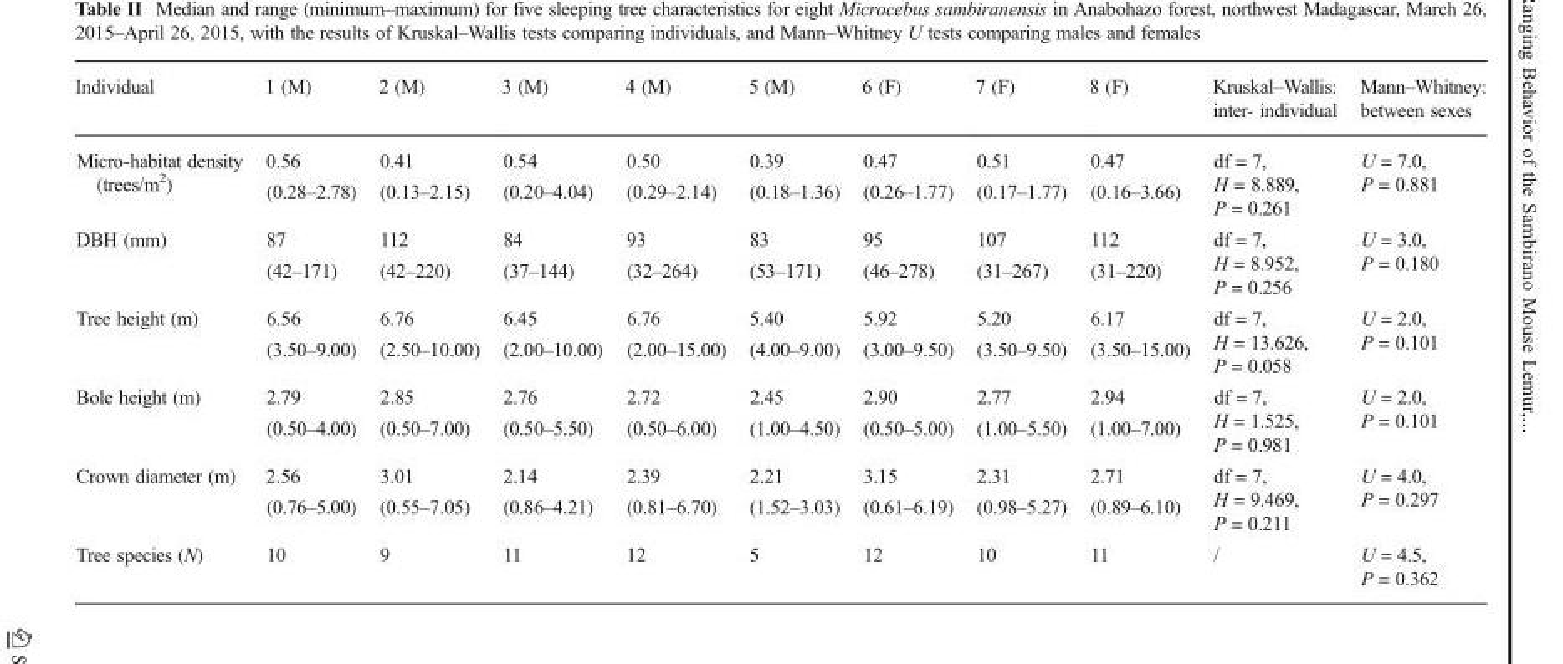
<table><thead><tr><td>Individual</td><td>1 (M)</td><td>2 (M)</td><td>3 (M)</td><td>4 (M)</td><td>5 (M)</td><td>6 (F)</td><td>7 (F)</td><td>8 (F)</td><td>Kruskal–Wallis: inter- individual</td><td>Mann–Whitney: between sexes</td></tr></thead><tbody><tr><td rowspan="2">Micro-habitat density (trees/m<sup>2</sup>)</td><td>0.56</td><td>0.41</td><td>0.54</td><td>0.50</td><td>0.39</td><td>0.47</td><td>0.51</td><td>0.47</td><td rowspan="2">df = 7, H = 8.889, P = 0.261</td><td rowspan="2">U = 7.0, P = 0.881</td></tr><tr><td>(0.28–2.78)</td><td>(0.13–2.15)</td><td>(0.20–4.04)</td><td>(0.29–2.14)</td><td>(0.18–1.36)</td><td>(0.26–1.77)</td><td>(0.17–1.77)</td><td>(0.16–3.66)</td></tr><tr><td rowspan="2">DBH (mm)</td><td>87</td><td>112</td><td>84</td><td>93</td><td>83</td><td>95</td><td>107</td><td>112</td><td rowspan="2">df = 7, H = 8.952, P = 0.256</td><td rowspan="2">U = 3.0, P = 0.180</td></tr><tr><td>(42–171)</td><td>(42–220)</td><td>(37–144)</td><td>(32–264)</td><td>(53–171)</td><td>(46–278)</td><td>(31–267)</td><td>(31–220)</td></tr><tr><td rowspan="2">Tree height (m)</td><td>6.56</td><td>6.76</td><td>6.45</td><td>6.76</td><td>5.40</td><td>5.92</td><td>5.20</td><td>6.17</td><td rowspan="2">df = 7, H = 13.626, P = 0.058</td><td rowspan="2">U = 2.0, P = 0.101</td></tr><tr><td>(3.50–9.00)</td><td>(2.50–10.00)</td><td>(2.00–10.00)</td><td>(2.00–15.00)</td><td>(4.00–9.00)</td><td>(3.00–9.50)</td><td>(3.50–9.50)</td><td>(3.50–15.00)</td></tr><tr><td rowspan="2">Bole height (m)</td><td>2.79</td><td>2.85</td><td>2.76</td><td>2.72</td><td>2.45</td><td>2.90</td><td>2.77</td><td>2.94</td><td rowspan="2">df = 7, H = 1.525, P = 0.981</td><td rowspan="2">U = 2.0, P = 0.101</td></tr><tr><td>(0.50–4.00)</td><td>(0.50–7.00)</td><td>(0.50–5.50)</td><td>(0.50–6.00)</td><td>(1.00–4.50)</td><td>(0.50–5.00)</td><td>(1.00–5.50)</td><td>(1.00–7.00)</td></tr><tr><td rowspan="2">Crown diameter (m)</td><td>2.56</td><td>3.01</td><td>2.14</td><td>2.39</td><td>2.21</td><td>3.15</td><td>2.31</td><td>2.71</td><td rowspan="2">df = 7, H = 9.469, P = 0.211</td><td rowspan="2">U = 4.0, P = 0.297</td></tr><tr><td>(0.76–5.00)</td><td>(0.55–7.05)</td><td>(0.86–4.21)</td><td>(0.81–6.70)</td><td>(1.52–3.03)</td><td>(0.61–6.19)</td><td>(0.98–5.27)</td><td>(0.89–6.10)</td></tr><tr><td>Tree species (N)</td><td>10</td><td>9</td><td>11</td><td>12</td><td>5</td><td>12</td><td>10</td><td>11</td><td>/</td><td>U = 4.5, P = 0.362</td></tr></tbody></table>